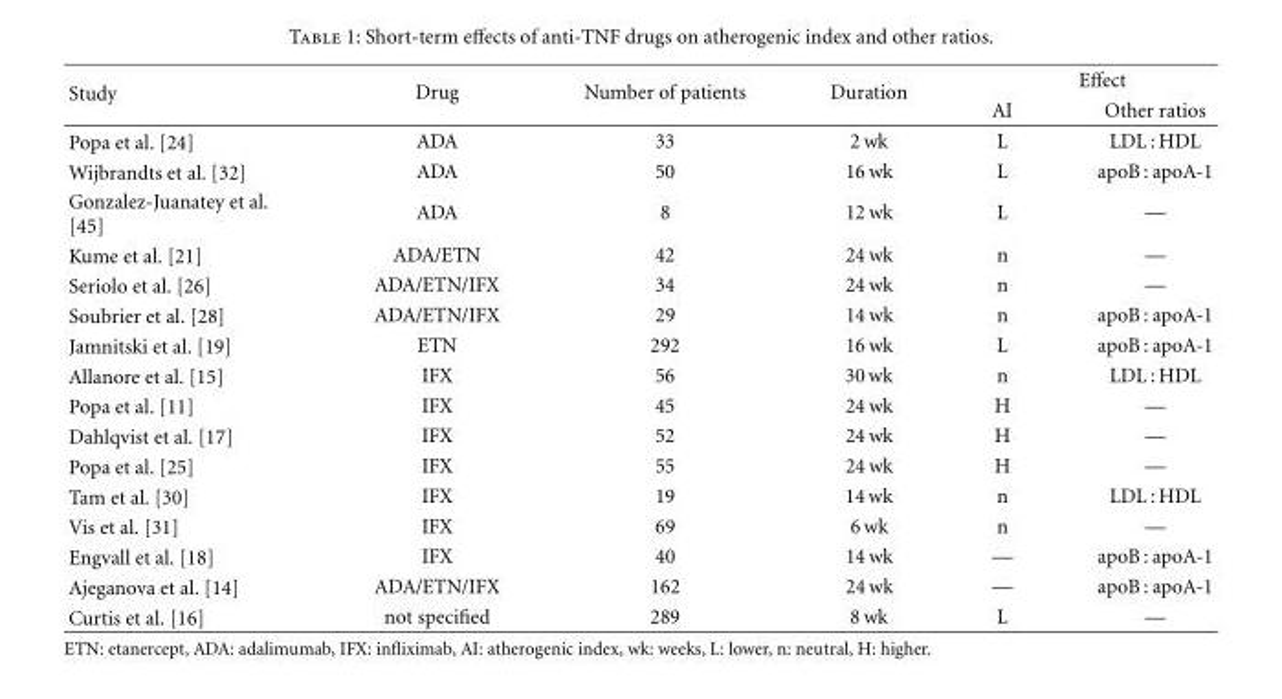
<table><thead><tr><td rowspan="2">Study</td><td rowspan="2">Drug</td><td rowspan="2">Number of patients</td><td rowspan="2">Duration</td><td colspan="2">Effect</td></tr><tr><td>AI</td><td>Other ratios</td></tr></thead><tbody><tr><td>Popa et al. [24]</td><td>ADA</td><td>33</td><td>2 wk</td><td>L</td><td>LDL : HDL</td></tr><tr><td>Wijbrandts et al. [32]</td><td>ADA</td><td>50</td><td>16 wk</td><td>L</td><td>apoB : apoA-1</td></tr><tr><td>Gonzalez-Juanatey et al. [45]</td><td>ADA</td><td>8</td><td>12 wk</td><td>L</td><td>—</td></tr><tr><td>Kume et al. [21]</td><td>ADA/ETN</td><td>42</td><td>24 wk</td><td>n</td><td>—</td></tr><tr><td>Seriolo et al. [26]</td><td>ADA/ETN/IFX</td><td>34</td><td>24 wk</td><td>n</td><td>—</td></tr><tr><td>Soubrier et al. [28]</td><td>ADA/ETN/IFX</td><td>29</td><td>14 wk</td><td>n</td><td>apoB : apoA-1</td></tr><tr><td>Jamnitski et al. [19]</td><td>ETN</td><td>292</td><td>16 wk</td><td>L</td><td>apoB : apoA-1</td></tr><tr><td>Allanore et al. [15]</td><td>IFX</td><td>56</td><td>30 wk</td><td>n</td><td>LDL : HDL</td></tr><tr><td>Popa et al. [11]</td><td>IFX</td><td>45</td><td>24 wk</td><td>H</td><td>—</td></tr><tr><td>Dahlqvist et al. [17]</td><td>IFX</td><td>52</td><td>24 wk</td><td>H</td><td>—</td></tr><tr><td>Popa et al. [25]</td><td>IFX</td><td>55</td><td>24 wk</td><td>H</td><td>—</td></tr><tr><td>Tam et al. [30]</td><td>IFX</td><td>19</td><td>14 wk</td><td>n</td><td>LDL : HDL</td></tr><tr><td>Vis et al. [31]</td><td>IFX</td><td>69</td><td>6 wk</td><td>n</td><td>—</td></tr><tr><td>Engvall et al. [18]</td><td>IFX</td><td>40</td><td>14 wk</td><td>—</td><td>apoB : apoA-1</td></tr><tr><td>Ajeganova et al. [14]</td><td>ADA/ETN/IFX</td><td>162</td><td>24 wk</td><td>—</td><td>apoB : apoA-1</td></tr><tr><td>Curtis et al. [16]</td><td>not specified</td><td>289</td><td>8 wk</td><td>L</td><td>—</td></tr></tbody></table>